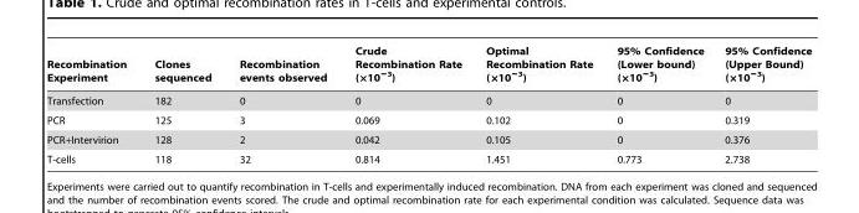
<table><thead><tr><td>Recombination Experiment</td><td>Clones sequenced</td><td>Recombination events observed</td><td>Crude Recombination Rate (×10<sup>−3</sup>)</td><td>Optimal Recombination Rate (×10<sup>−3</sup>)</td><td>95% Confidence (Lower bound) (×10<sup>−3</sup>)</td><td>95% Confidence (Upper Bound) (×10<sup>−3</sup>)</td></tr></thead><tbody><tr><td>Transfection</td><td>182</td><td>0</td><td>0</td><td>0</td><td>0</td><td>0</td></tr><tr><td>PCR</td><td>125</td><td>3</td><td>0.069</td><td>0.102</td><td>0</td><td>0.319</td></tr><tr><td>PCR+Intervirion</td><td>128</td><td>2</td><td>0.042</td><td>0.105</td><td>0</td><td>0.376</td></tr><tr><td>T-cells</td><td>118</td><td>32</td><td>0.814</td><td>1.451</td><td>0.773</td><td>2.738</td></tr></tbody></table>